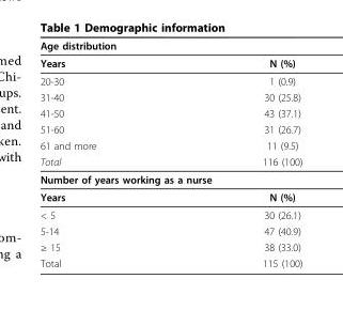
<table><thead><tr><td colspan="2">Age distribution</td></tr><tr><td>Years</td><td>N (%)</td></tr></thead><tbody><tr><td>20-30</td><td>1 (0.9)</td></tr><tr><td>31-40</td><td>30 (25.8)</td></tr><tr><td>41-50</td><td>43 (37.1)</td></tr><tr><td>51-60</td><td>31 (26.7)</td></tr><tr><td>61 and more</td><td>11 (9.5)</td></tr><tr><td>Total</td><td>116 (100)</td></tr><tr><td colspan="2">Number of years working as a nurse</td></tr><tr><td>Years</td><td>N (%)</td></tr><tr><td>&lt; 5</td><td>30 (26.1)</td></tr><tr><td>5-14</td><td>47 (40.9)</td></tr><tr><td>≥ 15</td><td>38 (33.0)</td></tr><tr><td>Total</td><td>115 (100)</td></tr></tbody></table>